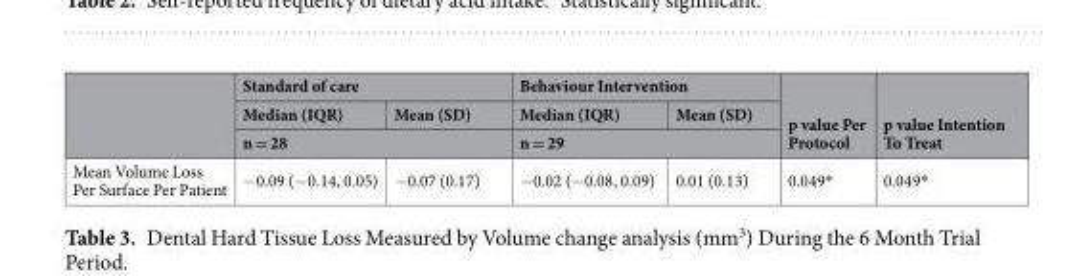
<table><thead><tr><td rowspan="3"></td><td colspan="2">Standard of care</td><td colspan="2">Behaviour Intervention</td><td rowspan="3">p value Per Protocol</td><td rowspan="3">p value Intention To Treat</td></tr><tr><td>Median (IQR)</td><td>Mean (SD)</td><td>Median (IQR)</td><td>Mean (SD)</td></tr><tr><td colspan="2">n = 28</td><td colspan="2">n = 29</td></tr></thead><tbody><tr><td>Mean Volume Loss Per Surface Per Patient</td><td>−0.09 (−0.14, 0.05)</td><td>−0.07 (0.17)</td><td>−0.02 (−0.08, 0.09)</td><td>0.01 (0.13)</td><td>0.049*</td><td>0.049*</td></tr></tbody></table>